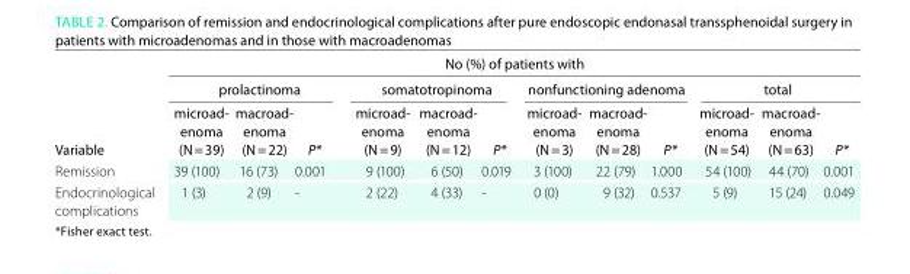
<table><thead><tr><td rowspan="3">Variable</td><td colspan="12">no (%) of patients with</td></tr><tr><td colspan="3">prolactinoma</td><td colspan="3">somatotropinoma</td><td colspan="3">nonfunctioning adenoma</td><td colspan="3">total</td></tr><tr><td>microad- enoma (n = 39)</td><td>macroad- enoma (n = 22)</td><td>P*</td><td>microad- enoma (n = 9)</td><td>macroad- enoma (n = 12)</td><td>P*</td><td>microad- enoma (n = 3)</td><td>macroad- enoma (n = 28)</td><td>P*</td><td>microad- enoma (n = 54)</td><td>macroad- enoma (n = 63)</td><td>P*</td></tr></thead><tbody><tr><td>Remission</td><td>39 (100)</td><td>16 (73)</td><td>0.001</td><td>9 (100)</td><td>6 (50)</td><td>0.019</td><td>3 (100)</td><td>22 (79)</td><td>1.000</td><td>54 (100)</td><td>44 (70)</td><td>0.001</td></tr><tr><td>Endocrinological complications</td><td>1 (3)</td><td>2 (9)</td><td>-</td><td>2 (22)</td><td>4 (33)</td><td>-</td><td>0 (0)</td><td>9 (32)</td><td>0.537</td><td>5 (9)</td><td>15 (24)</td><td>0.049</td></tr></tbody></table>